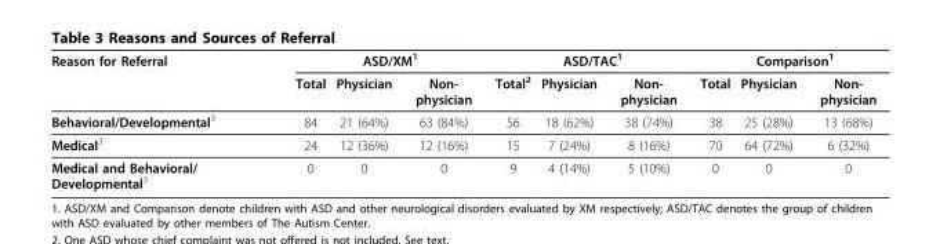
<table><thead><tr><td rowspan="2">Reason for Referral</td><td colspan="3">ASD/XM<sup>1</sup></td><td colspan="3">ASD/TAC<sup>1</sup></td><td colspan="3">Comparison<sup>1</sup></td></tr><tr><td>Total</td><td>Physician</td><td>Non- physician</td><td>Total<sup>2</sup></td><td>Physician</td><td>Non- physician</td><td>Total</td><td>Physician</td><td>Non- physician</td></tr></thead><tbody><tr><td>Behavioral/Developmental<sup>3</sup></td><td>84</td><td>21 (64%)</td><td>63 (84%)</td><td>56</td><td>18 (62%)</td><td>38 (74%)</td><td>38</td><td>25 (28%)</td><td>13 (68%)</td></tr><tr><td>Medical<sup>3</sup></td><td>24</td><td>12 (36%)</td><td>12 (16%)</td><td>15</td><td>7 (24%)</td><td>8 (16%)</td><td>70</td><td>64 (72%)</td><td>6 (32%)</td></tr><tr><td>Medical and Behavioral/ Developmental<sup>3</sup></td><td>0</td><td>0</td><td>0</td><td>9</td><td>4 (14%)</td><td>5 (10%)</td><td>0</td><td>0</td><td>0</td></tr></tbody></table>